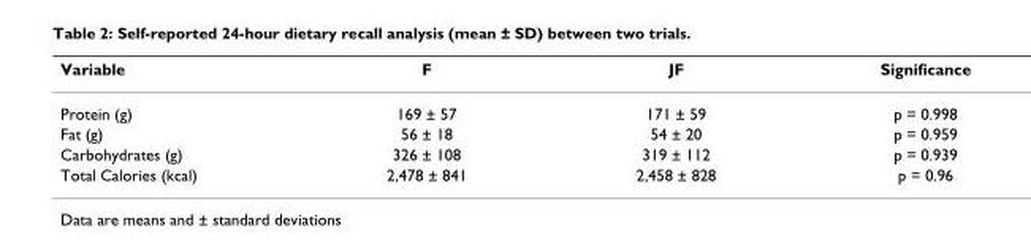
<table><thead><tr><td>Variable</td><td>F</td><td>JF</td><td>Significance</td></tr></thead><tbody><tr><td>Protein (g)</td><td>169 ± 57</td><td>171 ± 59</td><td>p = 0.998</td></tr><tr><td>Fat (g)</td><td>56 ± 18</td><td>54 ± 20</td><td>p = 0.959</td></tr><tr><td>Carbohydrates (g)</td><td>326 ± 108</td><td>319 ± 112</td><td>p = 0.939</td></tr><tr><td>Total Calories (kcal)</td><td>2,478 ± 841</td><td>2,458 ± 828</td><td>p = 0.96</td></tr></tbody></table>